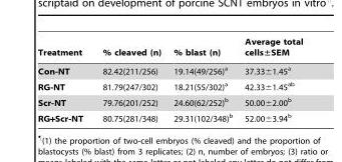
<table><thead><tr><td>Treatment</td><td>% cleaved (n)</td><td>% blast (n)</td><td>Average total cells±SEM</td></tr></thead><tbody><tr><td>Con-NT</td><td>82.42(211/256)</td><td>19.14(49/256)<sup>a</sup></td><td>37.33±1.45<sup>a</sup></td></tr><tr><td>RG-NT</td><td>81.79(247/302)</td><td>18.21(55/302)<sup>a</sup></td><td>42.33±1.45<sup>ab</sup></td></tr><tr><td>Scr-NT</td><td>79.76(201/252)</td><td>24.60(62/252)<sup>b</sup></td><td>50.00±2.00<sup>b</sup></td></tr><tr><td>RG+Scr-NT</td><td>80.75(281/348)</td><td>29.31(102/348)<sup>b</sup></td><td>52.00±3.94<sup>b</sup></td></tr></tbody></table>